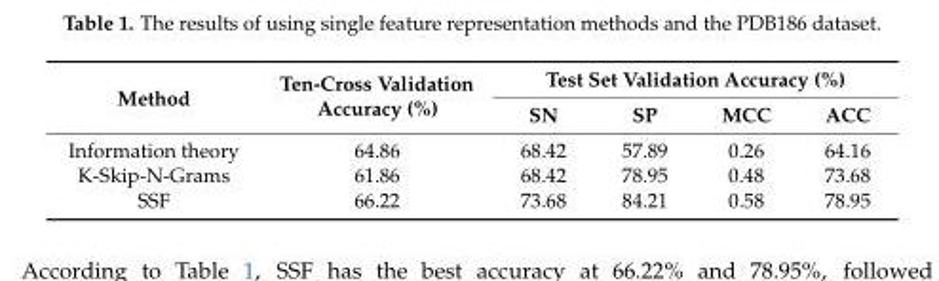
<table><thead><tr><td rowspan="2">Method</td><td rowspan="2">Ten-Cross Validation Accuracy (%)</td><td colspan="4">Test Set Validation Accuracy (%)</td></tr><tr><td>SN</td><td>SP</td><td>MCC</td><td>ACC</td></tr></thead><tbody><tr><td>Information theory</td><td>64.86</td><td>68.42</td><td>57.89</td><td>0.26</td><td>64.16</td></tr><tr><td>K-Skip-N-Grams</td><td>61.86</td><td>68.42</td><td>78.95</td><td>0.48</td><td>73.68</td></tr><tr><td>SSF</td><td>66.22</td><td>73.68</td><td>84.21</td><td>0.58</td><td>78.95</td></tr></tbody></table>